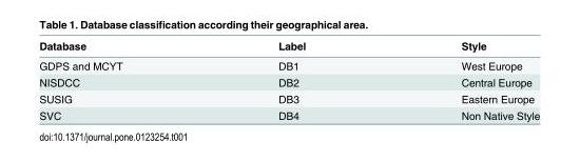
<table><thead><tr><td>Database</td><td>Label</td><td>Style</td></tr></thead><tbody><tr><td>GDPS and MCYT</td><td>DB1</td><td>West Europe</td></tr><tr><td>NISDCC</td><td>DB2</td><td>Central Europe</td></tr><tr><td>SUSIG</td><td>DB3</td><td>Eastern Europe</td></tr><tr><td>SVC</td><td>DB4</td><td>Non Native Style</td></tr></tbody></table>